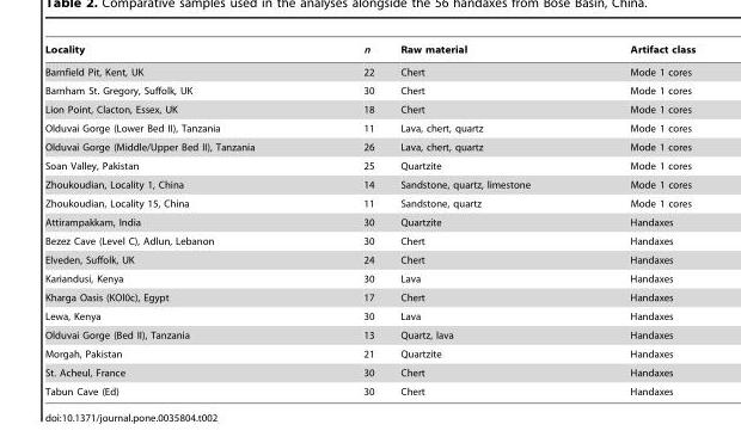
<table><thead><tr><td>Locality</td><td>n</td><td>Raw material</td><td>Artifact class</td></tr></thead><tbody><tr><td>Barnfield Pit, Kent, UK</td><td>22</td><td>Chert</td><td>Mode 1 cores</td></tr><tr><td>Barnham St. Gregory, Suffolk, UK</td><td>30</td><td>Chert</td><td>Mode 1 cores</td></tr><tr><td>Lion Point, Clacton, Essex, UK</td><td>18</td><td>Chert</td><td>Mode 1 cores</td></tr><tr><td>Olduvai Gorge (Lower Bed II), Tanzania</td><td>11</td><td>Lava, chert, quartz</td><td>Mode 1 cores</td></tr><tr><td>Olduvai Gorge (Middle/Upper Bed II), Tanzania</td><td>26</td><td>Lava, chert, quartz</td><td>Mode 1 cores</td></tr><tr><td>Soan Valley, Pakistan</td><td>25</td><td>Quartzite</td><td>Mode 1 cores</td></tr><tr><td>Zhoukoudian, Locality 1, China</td><td>14</td><td>Sandstone, quartz, limestone</td><td>Mode 1 cores</td></tr><tr><td>Zhoukoudian, Locality 15, China</td><td>11</td><td>Sandstone, quartz</td><td>Mode 1 cores</td></tr><tr><td>Attirampakkam, India</td><td>30</td><td>Quartzite</td><td>Handaxes</td></tr><tr><td>Bezez Cave (Level C), Adlun, Lebanon</td><td>30</td><td>Chert</td><td>Handaxes</td></tr><tr><td>Elveden, Suffolk, UK</td><td>24</td><td>Chert</td><td>Handaxes</td></tr><tr><td>Kariandusi, Kenya</td><td>30</td><td>Lava</td><td>Handaxes</td></tr><tr><td>Kharga Oasis (KOl0c), Egypt</td><td>17</td><td>Chert</td><td>Handaxes</td></tr><tr><td>Lewa, Kenya</td><td>30</td><td>Lava</td><td>Handaxes</td></tr><tr><td>Olduvai Gorge (Bed II), Tanzania</td><td>13</td><td>Quartz, lava</td><td>Handaxes</td></tr><tr><td>Morgah, Pakistan</td><td>21</td><td>Quartzite</td><td>Handaxes</td></tr><tr><td>St. Acheul, France</td><td>30</td><td>Chert</td><td>Handaxes</td></tr><tr><td>Tabun Cave (Ed)</td><td>30</td><td>Chert</td><td>Handaxes</td></tr></tbody></table>